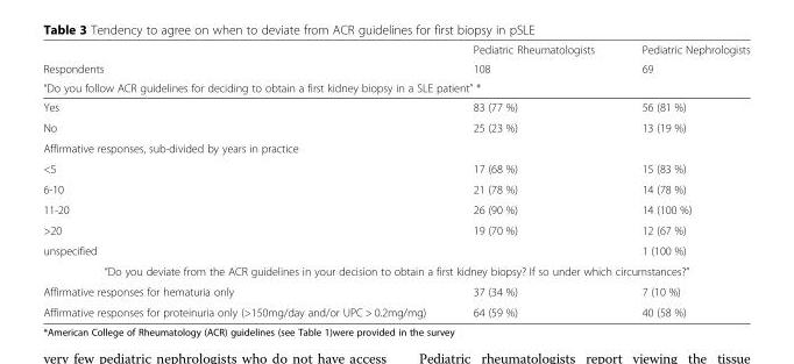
<table><thead><tr><td rowspan="2">Respondents</td><td rowspan="2">Pediatric Rheumatologists 108</td><td rowspan="2">Pediatric Nephrologists 69</td></tr><tr></tr><tr><td colspan="3">“Do you follow ACR guidelines for deciding to obtain a first kidney biopsy in a SLE patient” *</td></tr></thead><tbody><tr><td>Yes</td><td>83 (77 %)</td><td>56 (81 %)</td></tr><tr><td>No</td><td>25 (23 %)</td><td>13 (19 %)</td></tr><tr><td colspan="3">Affirmative responses, sub-divided by years in practice</td></tr><tr><td>&lt;5</td><td>17 (68 %)</td><td>15 (83 %)</td></tr><tr><td>6-10</td><td>21 (78 %)</td><td>14 (78 %)</td></tr><tr><td>11-20</td><td>26 (90 %)</td><td>14 (100 %)</td></tr><tr><td>&gt;20</td><td>19 (70 %)</td><td>12 (67 %)</td></tr><tr><td>unspecified</td><td></td><td>1 (100 %)</td></tr><tr><td colspan="3">“Do you deviate from the ACR guidelines in your decision to obtain a first kidney biopsy? If so under which circumstances?”</td></tr><tr><td>Affirmative responses for hematuria only</td><td>37 (34 %)</td><td>7 (10 %)</td></tr><tr><td>Affirmative responses for proteinuria only (&gt;150mg/day and/or UPC &gt; 0.2mg/mg)</td><td>64 (59 %)</td><td>40 (58 %)</td></tr></tbody></table>